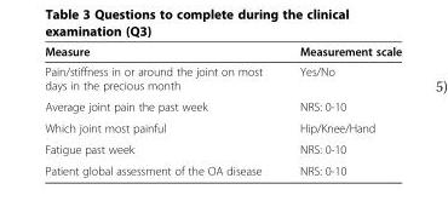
<table><thead><tr><td>Measure</td><td>Measurement scale</td></tr></thead><tbody><tr><td>Pain/stiffness in or around the joint on most days in the precious month</td><td>Yes/No</td></tr><tr><td>Average joint pain the past week</td><td>NRS: 0-10</td></tr><tr><td>Which joint most painful</td><td>Hip/Knee/Hand</td></tr><tr><td>Fatigue past week</td><td>NRS: 0-10</td></tr><tr><td>Patient global assessment of the OA disease</td><td>NRS: 0-10</td></tr></tbody></table>